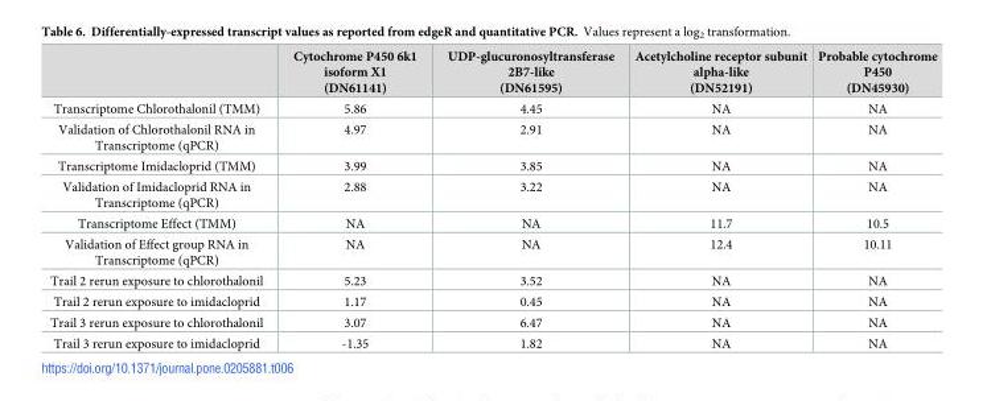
<table><thead><tr><td></td><td>Cytochrome P450 6k1 isoform X1 (DN61141)</td><td>UDP-glucuronosyltransferase 2B7-like (DN61595)</td><td>Acetylcholine receptor subunit alpha-like (DN52191)</td><td>Probable cytochrome P450 (DN45930)</td></tr></thead><tbody><tr><td>Transcriptome Chlorothalonil (TMM)</td><td>5.86</td><td>4.45</td><td>NA</td><td>NA</td></tr><tr><td>Validation of Chlorothalonil RNA in Transcriptome (qPCR)</td><td>4.97</td><td>2.91</td><td>NA</td><td>NA</td></tr><tr><td>Transcriptome Imidacloprid (TMM)</td><td>3.99</td><td>3.85</td><td>NA</td><td>NA</td></tr><tr><td>Validation of Imidacloprid RNA in Transcriptome (qPCR)</td><td>2.88</td><td>3.22</td><td>NA</td><td>NA</td></tr><tr><td>Transcriptome Effect (TMM)</td><td>NA</td><td>NA</td><td>11.7</td><td>10.5</td></tr><tr><td>Validation of Effect group RNA in Transcriptome (qPCR)</td><td>NA</td><td>NA</td><td>12.4</td><td>10.11</td></tr><tr><td>Trail 2 rerun exposure to chlorothalonil</td><td>5.23</td><td>3.52</td><td>NA</td><td>NA</td></tr><tr><td>Trail 2 rerun exposure to imidacloprid</td><td>1.17</td><td>0.45</td><td>NA</td><td>NA</td></tr><tr><td>Trail 3 rerun exposure to chlorothalonil</td><td>3.07</td><td>6.47</td><td>NA</td><td>NA</td></tr><tr><td>Trail 3 rerun exposure to imidacloprid</td><td>-1.35</td><td>1.82</td><td>NA</td><td>NA</td></tr></tbody></table>